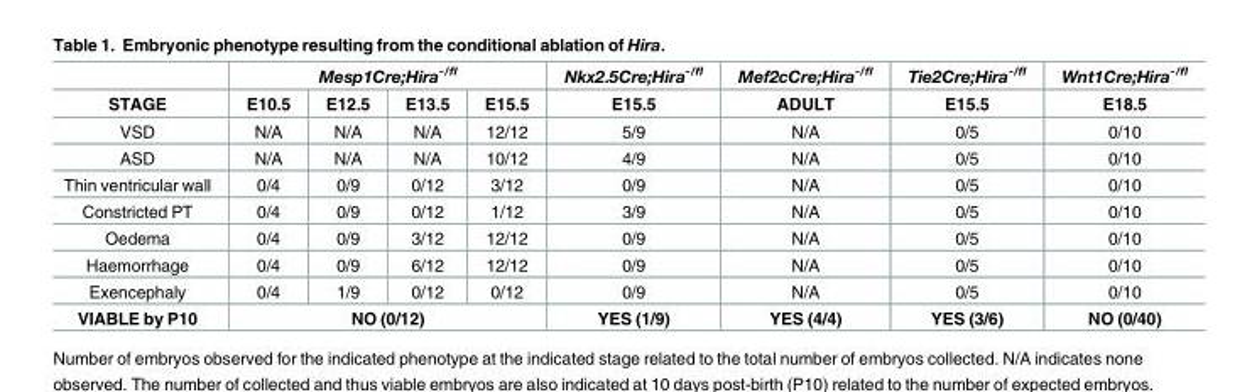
<table><thead><tr><td rowspan="2">STAGE</td><td colspan="4">Mesp1Cre;Hira<sup>-/fl</sup></td><td rowspan="2">Nkx2.5Cre;Hira<sup>-/fl</sup> E15.5</td><td rowspan="2">Mef2cCre;Hira<sup>-/fl</sup> ADULT</td><td rowspan="2">Tie2Cre;Hira<sup>-/fl</sup> E15.5</td><td rowspan="2">Wnt1Cre;Hira<sup>-/fl</sup> E18.5</td></tr><tr><td>E10.5</td><td>E12.5</td><td>E13.5</td><td>E15.5</td></tr></thead><tbody><tr><td>VSD</td><td>N/A</td><td>N/A</td><td>N/A</td><td>12/12</td><td>5/9</td><td>N/A</td><td>0/5</td><td>0/10</td></tr><tr><td>ASD</td><td>N/A</td><td>N/A</td><td>N/A</td><td>10/12</td><td>4/9</td><td>N/A</td><td>0/5</td><td>0/10</td></tr><tr><td>Thin ventricular wall</td><td>0/4</td><td>0/9</td><td>0/12</td><td>3/12</td><td>0/9</td><td>N/A</td><td>0/5</td><td>0/10</td></tr><tr><td>Constricted PT</td><td>0/4</td><td>0/9</td><td>0/12</td><td>1/12</td><td>3/9</td><td>N/A</td><td>0/5</td><td>0/10</td></tr><tr><td>Oedema</td><td>0/4</td><td>0/9</td><td>3/12</td><td>12/12</td><td>0/9</td><td>N/A</td><td>0/5</td><td>0/10</td></tr><tr><td>Haemorrhage</td><td>0/4</td><td>0/9</td><td>6/12</td><td>12/12</td><td>0/9</td><td>N/A</td><td>0/5</td><td>0/10</td></tr><tr><td>Exencephaly</td><td>0/4</td><td>1/9</td><td>0/12</td><td>0/12</td><td>0/9</td><td>N/A</td><td>0/5</td><td>0/10</td></tr><tr><td>VIABLE by P10</td><td colspan="4">NO (0/12)</td><td>YES (1/9)</td><td>YES (4/4)</td><td>YES (3/6)</td><td>NO (0/40)</td></tr></tbody></table>